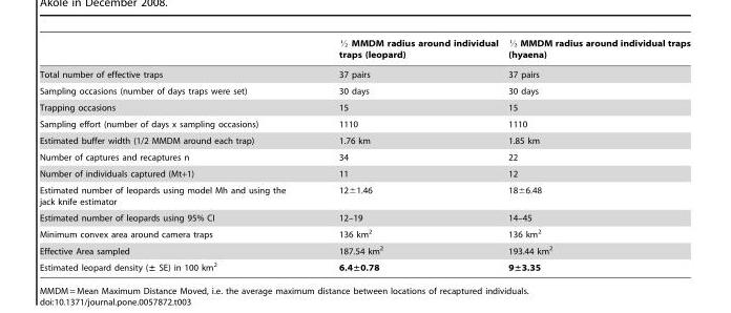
<table><thead><tr><td></td><td>K MMDM radius around individual traps (leopard)</td><td>K MMDM radius around individual traps (hyaena)</td></tr></thead><tbody><tr><td>Total number of effective traps</td><td>37 pairs</td><td>37 pairs</td></tr><tr><td>Sampling occasions (number of days traps were set)</td><td>30 days</td><td>30 days</td></tr><tr><td>Trapping occasions</td><td>15</td><td>15</td></tr><tr><td>Sampling effort (number of days x sampling occasions)</td><td>1110</td><td>1110</td></tr><tr><td>Estimated buffer width (1/2 MMDM around each trap)</td><td>1.76 km</td><td>1.85 km</td></tr><tr><td>Number of captures and recaptures n</td><td>34</td><td>22</td></tr><tr><td>Number of individuals captured (Mt+1)</td><td>11</td><td>12</td></tr><tr><td>Estimated number of leopards using model Mh and using the jack knife estimator</td><td>12±1.46</td><td>18±6.48</td></tr><tr><td>Estimated number of leopards using 95% CI</td><td>12–19</td><td>14–45</td></tr><tr><td>Minimum convex area around camera traps</td><td>136 km<sup>2</sup></td><td>136 km<sup>2</sup></td></tr><tr><td>Effective Area sampled</td><td>187.54 km<sup>2</sup></td><td>193.44 km<sup>2</sup></td></tr><tr><td>Estimated leopard density (± SE) in 100 km<sup>2</sup></td><td>6.4±0.78</td><td>9±3.35</td></tr></tbody></table>